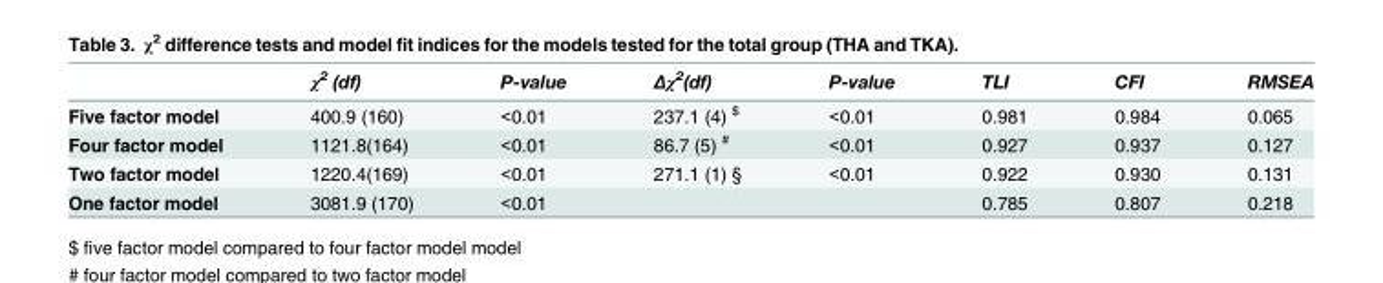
<table><thead><tr><td></td><td>χ<sup>2</sup> (df)</td><td>P-value</td><td>Δχ<sup>2</sup>(df)</td><td>P-value</td><td>TLI</td><td>CFI</td><td>RMSEA</td></tr></thead><tbody><tr><td>Five factor model</td><td>400.9 (160)</td><td>&lt;0.01</td><td>237.1 (4) <sup>$</sup></td><td>&lt;0.01</td><td>0.981</td><td>0.984</td><td>0.065</td></tr><tr><td>Four factor model</td><td>1121.8(164)</td><td>&lt;0.01</td><td>86.7 (5) <sup>#</sup></td><td>&lt;0.01</td><td>0.927</td><td>0.937</td><td>0.127</td></tr><tr><td>Two factor model</td><td>1220.4(169)</td><td>&lt;0.01</td><td>271.1 (1) §</td><td>&lt;0.01</td><td>0.922</td><td>0.930</td><td>0.131</td></tr><tr><td>One factor model</td><td>3081.9 (170)</td><td>&lt;0.01</td><td></td><td></td><td>0.785</td><td>0.807</td><td>0.218</td></tr></tbody></table>